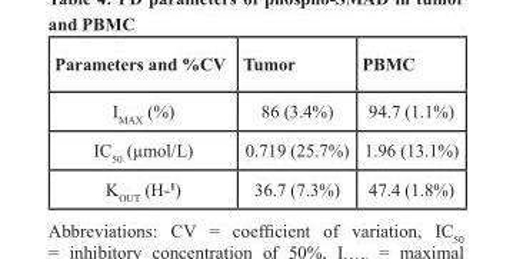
<table><thead><tr><td>Parameters and %CV</td><td>Tumor</td><td>PBMC</td></tr></thead><tbody><tr><td>I<sub>MAX</sub> (%)</td><td>86 (3.4%)</td><td>94.7 (1.1%)</td></tr><tr><td>IC<sub>50</sub> (µmol/L)</td><td>0.719 (25.7%)</td><td>1.96 (13.1%)</td></tr><tr><td>K<sub>OUT</sub> (H-<sup>1</sup>)</td><td>36.7 (7.3%)</td><td>47.4 (1.8%)</td></tr></tbody></table>